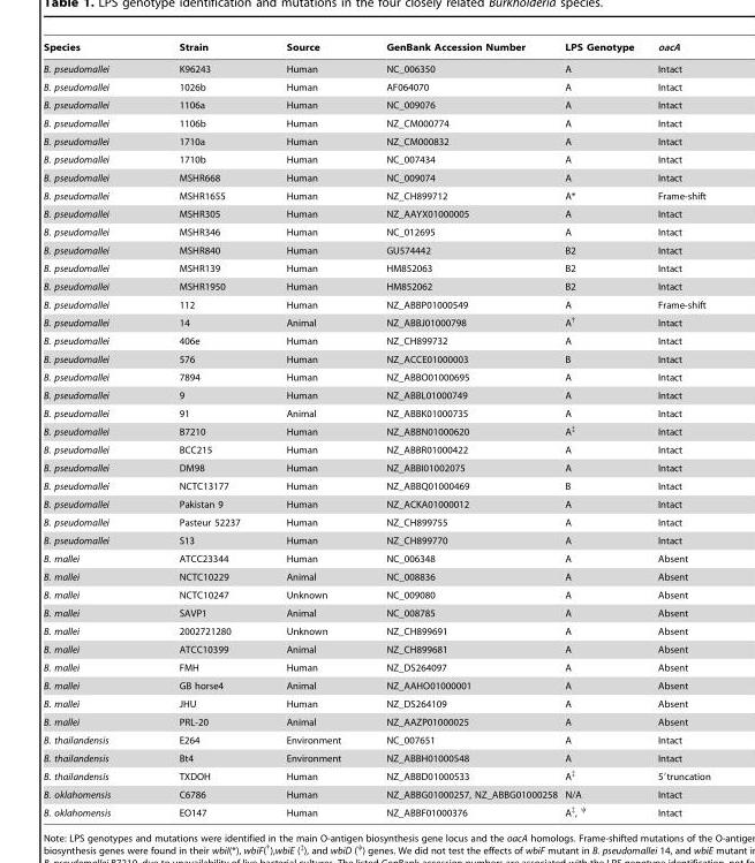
<table><thead><tr><td>Species</td><td>Strain</td><td>Source</td><td>GenBank Accession Number</td><td>LPS Genotype</td><td>oacA</td></tr></thead><tbody><tr><td>B. pseudomallei</td><td>K96243</td><td>Human</td><td>NC_006350</td><td>A</td><td>Intact</td></tr><tr><td>B. pseudomallei</td><td>1026b</td><td>Human</td><td>AF064070</td><td>A</td><td>Intact</td></tr><tr><td>B. pseudomallei</td><td>1106a</td><td>Human</td><td>NC_009076</td><td>A</td><td>Intact</td></tr><tr><td>B. pseudomallei</td><td>1106b</td><td>Human</td><td>NZ_CM000774</td><td>A</td><td>Intact</td></tr><tr><td>B. pseudomallei</td><td>1710a</td><td>Human</td><td>NZ_CM000832</td><td>A</td><td>Intact</td></tr><tr><td>B. pseudomallei</td><td>1710b</td><td>Human</td><td>NC_007434</td><td>A</td><td>Intact</td></tr><tr><td>B. pseudomallei</td><td>MSHR668</td><td>Human</td><td>NC_009074</td><td>A</td><td>Intact</td></tr><tr><td>B. pseudomallei</td><td>MSHR1655</td><td>Human</td><td>NZ_CH899712</td><td>A*</td><td>Frame-shift</td></tr><tr><td>B. pseudomallei</td><td>MSHR305</td><td>Human</td><td>NZ_AAYX01000005</td><td>A</td><td>Intact</td></tr><tr><td>B. pseudomallei</td><td>MSHR346</td><td>Human</td><td>NC_012695</td><td>A</td><td>Intact</td></tr><tr><td>B. pseudomallei</td><td>MSHR840</td><td>Human</td><td>GU574442</td><td>B2</td><td>Intact</td></tr><tr><td>B. pseudomallei</td><td>MSHR139</td><td>Human</td><td>HM852063</td><td>B2</td><td>Intact</td></tr><tr><td>B. pseudomallei</td><td>MSHR1950</td><td>Human</td><td>HM852062</td><td>B2</td><td>Intact</td></tr><tr><td>B. pseudomallei</td><td>112</td><td>Human</td><td>NZ_ABBP01000549</td><td>A</td><td>Frame-shift</td></tr><tr><td>B. pseudomallei</td><td>14</td><td>Animal</td><td>NZ_ABBJ01000798</td><td>A<sup>†</sup></td><td>Intact</td></tr><tr><td>B. pseudomallei</td><td>406e</td><td>Human</td><td>NZ_CH899732</td><td>A</td><td>Intact</td></tr><tr><td>B. pseudomallei</td><td>576</td><td>Human</td><td>NZ_ACCE01000003</td><td>B</td><td>Intact</td></tr><tr><td>B. pseudomallei</td><td>7894</td><td>Human</td><td>NZ_ABBO01000695</td><td>A</td><td>Intact</td></tr><tr><td>B. pseudomallei</td><td>9</td><td>Human</td><td>NZ_ABBL01000749</td><td>A</td><td>Intact</td></tr><tr><td>B. pseudomallei</td><td>91</td><td>Animal</td><td>NZ_ABBK01000735</td><td>A</td><td>Intact</td></tr><tr><td>B. pseudomallei</td><td>B7210</td><td>Human</td><td>NZ_ABBN01000620</td><td>A<sup>‡</sup></td><td>Intact</td></tr><tr><td>B. pseudomallei</td><td>BCC215</td><td>Human</td><td>NZ_ABBR01000422</td><td>A</td><td>Intact</td></tr><tr><td>B. pseudomallei</td><td>DM98</td><td>Human</td><td>NZ_ABBI01002075</td><td>A</td><td>Intact</td></tr><tr><td>B. pseudomallei</td><td>NCTC13177</td><td>Human</td><td>NZ_ABBQ01000469</td><td>B</td><td>Intact</td></tr><tr><td>B. pseudomallei</td><td>Pakistan 9</td><td>Human</td><td>NZ_ACKA01000012</td><td>A</td><td>Intact</td></tr><tr><td>B. pseudomallei</td><td>Pasteur 52237</td><td>Human</td><td>NZ_CH899755</td><td>A</td><td>Intact</td></tr><tr><td>B. pseudomallei</td><td>S13</td><td>Human</td><td>NZ_CH899770</td><td>A</td><td>Intact</td></tr><tr><td>B. mallei</td><td>ATCC23344</td><td>Human</td><td>NC_006348</td><td>A</td><td>Absent</td></tr><tr><td>B. mallei</td><td>NCTC10229</td><td>Animal</td><td>NC_008836</td><td>A</td><td>Absent</td></tr><tr><td>B. mallei</td><td>NCTC10247</td><td>Unknown</td><td>NC_009080</td><td>A</td><td>Absent</td></tr><tr><td>B. mallei</td><td>SAVP1</td><td>Animal</td><td>NC_008785</td><td>A</td><td>Absent</td></tr><tr><td>B. mallei</td><td>2002721280</td><td>Unknown</td><td>NZ_CH899691</td><td>A</td><td>Absent</td></tr><tr><td>B. mallei</td><td>ATCC10399</td><td>Animal</td><td>NZ_CH899681</td><td>A</td><td>Absent</td></tr><tr><td>B. mallei</td><td>FMH</td><td>Human</td><td>NZ_DS264097</td><td>A</td><td>Absent</td></tr><tr><td>B. mallei</td><td>GB horse4</td><td>Animal</td><td>NZ_AAHO01000001</td><td>A</td><td>Absent</td></tr><tr><td>B. mallei</td><td>JHU</td><td>Human</td><td>NZ_DS264109</td><td>A</td><td>Absent</td></tr><tr><td>B. mallei</td><td>PRL-20</td><td>Animal</td><td>NZ_AAZP01000025</td><td>A</td><td>Absent</td></tr><tr><td>B. thailandensis</td><td>E264</td><td>Environment</td><td>NC_007651</td><td>A</td><td>Intact</td></tr><tr><td>B. thailandensis</td><td>Bt4</td><td>Environment</td><td>NZ_ABBH01000548</td><td>A</td><td>Intact</td></tr><tr><td>B. thailandensis</td><td>TXDOH</td><td>Human</td><td>NZ_ABBD01000533</td><td>A<sup>‡</sup></td><td>5′truncation</td></tr><tr><td>B. oklahomensis</td><td>C6786</td><td>Human</td><td>NZ_ABBG01000257, NZ_ABBG01000258</td><td>N/A</td><td>Intact</td></tr><tr><td>B. oklahomensis</td><td>EO147</td><td>Human</td><td>NZ_ABBF01000376</td><td>A<sup>‡</sup>, <sup>ψ</sup></td><td>Intact</td></tr></tbody></table>